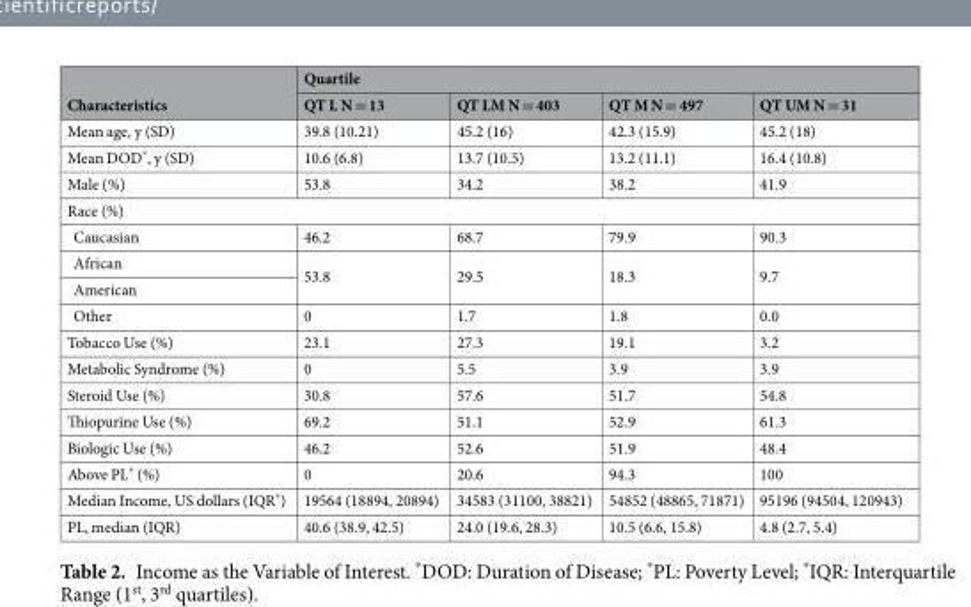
<table><thead><tr><td rowspan="2">Characteristics</td><td colspan="4">Quartile</td></tr><tr><td>QT L N = 13</td><td>QT LM N = 403</td><td>QT M N = 497</td><td>QT UM N = 31</td></tr></thead><tbody><tr><td>Mean age, y (SD)</td><td>39.8 (10.21)</td><td>45.2 (16)</td><td>42.3 (15.9)</td><td>45.2 (18)</td></tr><tr><td>Mean DOD*, y (SD)</td><td>10.6 (6.8)</td><td>13.7 (10.5)</td><td>13.2 (11.1)</td><td>16.4 (10.8)</td></tr><tr><td>Male (%)</td><td>53.8</td><td>34.2</td><td>38.2</td><td>41.9</td></tr><tr><td colspan="5">Race (%)</td></tr><tr><td>Caucasian</td><td>46.2</td><td>68.7</td><td>79.9</td><td>90.3</td></tr><tr><td>African</td><td rowspan="2">53.8</td><td rowspan="2">29.5</td><td rowspan="2">18.3</td><td rowspan="2">9.7</td></tr><tr><td>American</td></tr><tr><td>Other</td><td>0</td><td>1.7</td><td>1.8</td><td>0.0</td></tr><tr><td>Tobacco Use (%)</td><td>23.1</td><td>27.3</td><td>19.1</td><td>3.2</td></tr><tr><td>Metabolic Syndrome (%)</td><td>0</td><td>5.5</td><td>3.9</td><td>3.9</td></tr><tr><td>Steroid Use (%)</td><td>30.8</td><td>57.6</td><td>51.7</td><td>54.8</td></tr><tr><td>Thiopurine Use (%)</td><td>69.2</td><td>51.1</td><td>52.9</td><td>61.3</td></tr><tr><td>Biologic Use (%)</td><td>46.2</td><td>52.6</td><td>51.9</td><td>48.4</td></tr><tr><td>Above PL* (%)</td><td>0</td><td>20.6</td><td>94.3</td><td>100</td></tr><tr><td>Median Income, US dollars (IQR*)</td><td>19564 (18894, 20894)</td><td>34583 (31100, 38821)</td><td>54852 (48865, 71871)</td><td>95196 (94504, 120943)</td></tr><tr><td>PL, median (IQR)</td><td>40.6 (38.9, 42.5)</td><td>24.0 (19.6, 28.3)</td><td>10.5 (6.6, 15.8)</td><td>4.8 (2.7, 5.4)</td></tr></tbody></table>